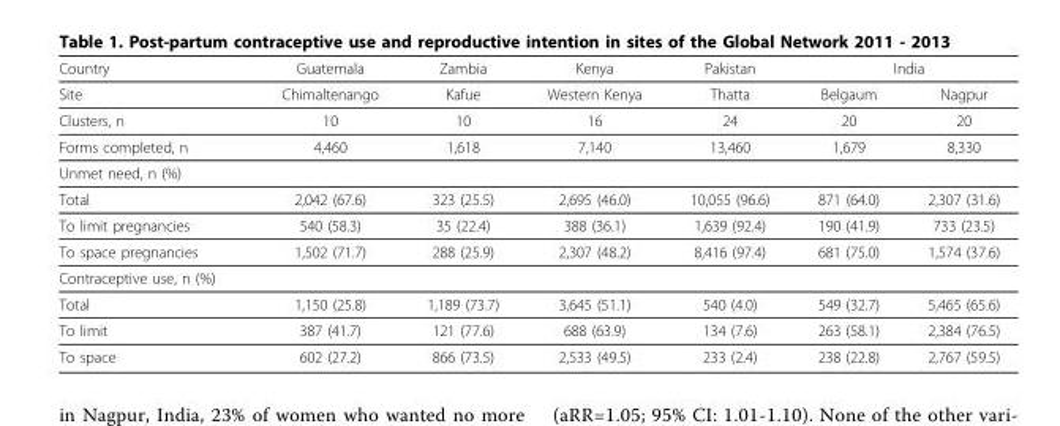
<table><thead><tr><td rowspan="2">Country Site</td><td rowspan="2">Guatemala Chimaltenango</td><td rowspan="2">Zambia Kafue</td><td rowspan="2">Kenya Western Kenya</td><td rowspan="2">Pakistan Thatta</td><td colspan="2">India</td></tr><tr><td>Belgaum</td><td>Nagpur</td></tr></thead><tbody><tr><td>Clusters, n</td><td>10</td><td>10</td><td>16</td><td>24</td><td>20</td><td>20</td></tr><tr><td>Forms completed, n</td><td>4,460</td><td>1,618</td><td>7,140</td><td>13,460</td><td>1,679</td><td>8,330</td></tr><tr><td colspan="7">Unmet need, n (%)</td></tr><tr><td>Total</td><td>2,042 (67.6)</td><td>323 (25.5)</td><td>2,695 (46.0)</td><td>10,055 (96.6)</td><td>871 (64.0)</td><td>2,307 (31.6)</td></tr><tr><td>To limit pregnancies</td><td>540 (58.3)</td><td>35 (22.4)</td><td>388 (36.1)</td><td>1,639 (92.4)</td><td>190 (41.9)</td><td>733 (23.5)</td></tr><tr><td>To space pregnancies</td><td>1,502 (71.7)</td><td>288 (25.9)</td><td>2,307 (48.2)</td><td>8,416 (97.4)</td><td>681 (75.0)</td><td>1,574 (37.6)</td></tr><tr><td colspan="7">Contraceptive use, n (%)</td></tr><tr><td>Total</td><td>1,150 (25.8)</td><td>1,189 (73.7)</td><td>3,645 (51.1)</td><td>540 (4.0)</td><td>549 (32.7)</td><td>5,465 (65.6)</td></tr><tr><td>To limit</td><td>387 (41.7)</td><td>121 (77.6)</td><td>688 (63.9)</td><td>134 (7.6)</td><td>263 (58.1)</td><td>2,384 (76.5)</td></tr><tr><td>To space</td><td>602 (27.2)</td><td>866 (73.5)</td><td>2,533 (49.5)</td><td>233 (2.4)</td><td>238 (22.8)</td><td>2,767 (59.5)</td></tr></tbody></table>